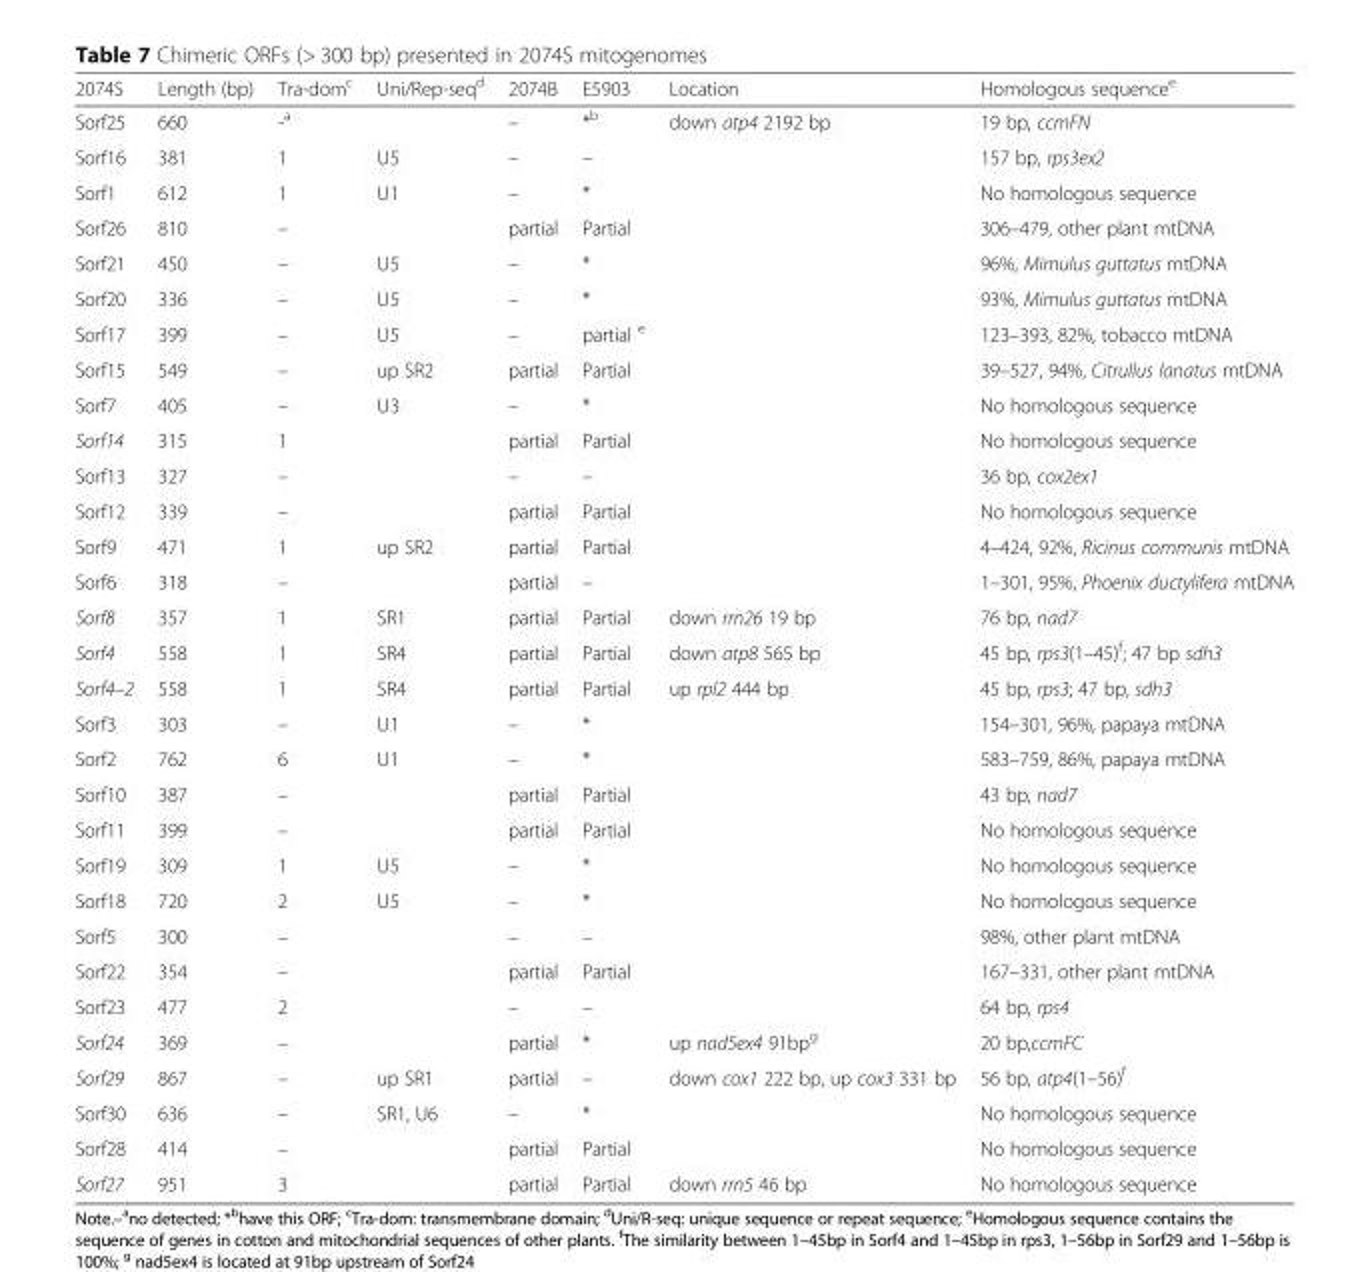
<table><thead><tr><td>2074S</td><td>Length (bp)</td><td>Tra-dom<sup>c</sup></td><td>Uni/Rep-seq<sup>d</sup></td><td>2074B</td><td>E5903</td><td>Location</td><td>Homologous sequence<sup>e</sup></td></tr></thead><tbody><tr><td>Sorf25</td><td>660</td><td>-<sup>a</sup></td><td></td><td>–</td><td>*<sup>b</sup></td><td>down atp4 2192 bp</td><td>19 bp, ccmFN</td></tr><tr><td>Sorf16</td><td>381</td><td>1</td><td>U5</td><td>–</td><td>–</td><td></td><td>157 bp, rps3ex2</td></tr><tr><td>Sorf1</td><td>612</td><td>1</td><td>U1</td><td>–</td><td>*</td><td></td><td>No homologous sequence</td></tr><tr><td>Sorf26</td><td>810</td><td>–</td><td></td><td>partial</td><td>Partial</td><td></td><td>306–479, other plant mtDNA</td></tr><tr><td>Sorf21</td><td>450</td><td>–</td><td>U5</td><td>–</td><td>*</td><td></td><td>96%, Mimulus guttatus mtDNA</td></tr><tr><td>Sorf20</td><td>336</td><td>–</td><td>U5</td><td>–</td><td>*</td><td></td><td>93%, Mimulus guttatus mtDNA</td></tr><tr><td>Sorf17</td><td>399</td><td>–</td><td>U5</td><td>–</td><td>partial <sup>e</sup></td><td></td><td>123–393, 82%, tobacco mtDNA</td></tr><tr><td>Sorf15</td><td>549</td><td>–</td><td>up SR2</td><td>partial</td><td>Partial</td><td></td><td>39–527, 94%, Citrullus lanatus mtDNA</td></tr><tr><td>Sorf7</td><td>405</td><td>–</td><td>U3</td><td>–</td><td>*</td><td></td><td>No homologous sequence</td></tr><tr><td>Sorf14</td><td>315</td><td>1</td><td></td><td>partial</td><td>Partial</td><td></td><td>No homologous sequence</td></tr><tr><td>Sorf13</td><td>327</td><td>–</td><td></td><td>–</td><td>–</td><td></td><td>36 bp, cox2ex1</td></tr><tr><td>Sorf12</td><td>339</td><td>–</td><td></td><td>partial</td><td>Partial</td><td></td><td>No homologous sequence</td></tr><tr><td>Sorf9</td><td>471</td><td>1</td><td>up SR2</td><td>partial</td><td>Partial</td><td></td><td>4–424, 92%, Ricinus communis mtDNA</td></tr><tr><td>Sorf6</td><td>318</td><td>–</td><td></td><td>partial</td><td>–</td><td></td><td>1–301, 95%, Phoenix ductylifera mtDNA</td></tr><tr><td>Sorf8</td><td>357</td><td>1</td><td>SR1</td><td>partial</td><td>Partial</td><td>down rrn26 19 bp</td><td>76 bp, nad7</td></tr><tr><td>Sorf4</td><td>558</td><td>1</td><td>SR4</td><td>partial</td><td>Partial</td><td>down atp8 565 bp</td><td>45 bp, rps3(1–45)<sup>f</sup>; 47 bp sdh3</td></tr><tr><td>Sorf4–2</td><td>558</td><td>1</td><td>SR4</td><td>partial</td><td>Partial</td><td>up rpl2 444 bp</td><td>45 bp, rps3; 47 bp, sdh3</td></tr><tr><td>Sorf3</td><td>303</td><td>–</td><td>U1</td><td>–</td><td>*</td><td></td><td>154–301, 96%, papaya mtDNA</td></tr><tr><td>Sorf2</td><td>762</td><td>6</td><td>U1</td><td>–</td><td>*</td><td></td><td>583–759, 86%, papaya mtDNA</td></tr><tr><td>Sorf10</td><td>387</td><td>–</td><td></td><td>partial</td><td>Partial</td><td></td><td>43 bp, nad7</td></tr><tr><td>Sorf11</td><td>399</td><td>–</td><td></td><td>partial</td><td>Partial</td><td></td><td>No homologous sequence</td></tr><tr><td>Sorf19</td><td>309</td><td>1</td><td>U5</td><td>–</td><td>*</td><td></td><td>No homologous sequence</td></tr><tr><td>Sorf18</td><td>720</td><td>2</td><td>U5</td><td>–</td><td>*</td><td></td><td>No homologous sequence</td></tr><tr><td>Sorf5</td><td>300</td><td>–</td><td></td><td>–</td><td>–</td><td></td><td>98%, other plant mtDNA</td></tr><tr><td>Sorf22</td><td>354</td><td>–</td><td></td><td>partial</td><td>Partial</td><td></td><td>167–331, other plant mtDNA</td></tr><tr><td>Sorf23</td><td>477</td><td>2</td><td></td><td>–</td><td>–</td><td></td><td>64 bp, rps4</td></tr><tr><td>Sorf24</td><td>369</td><td>–</td><td></td><td>partial</td><td>*</td><td>up nad5ex4 91bp<sup>g</sup></td><td>20 bp,ccmFC</td></tr><tr><td>Sorf29</td><td>867</td><td>–</td><td>up SR1</td><td>partial</td><td>–</td><td>down cox1 222 bp, up cox3 331 bp</td><td>56 bp, atp4(1–56)<sup>f</sup></td></tr><tr><td>Sorf30</td><td>636</td><td>–</td><td>SR1, U6</td><td>–</td><td>*</td><td></td><td>No homologous sequence</td></tr><tr><td>Sorf28</td><td>414</td><td>–</td><td></td><td>partial</td><td>Partial</td><td></td><td>No homologous sequence</td></tr><tr><td>Sorf27</td><td>951</td><td>3</td><td></td><td>partial</td><td>Partial</td><td>down rrn5 46 bp</td><td>No homologous sequence</td></tr></tbody></table>